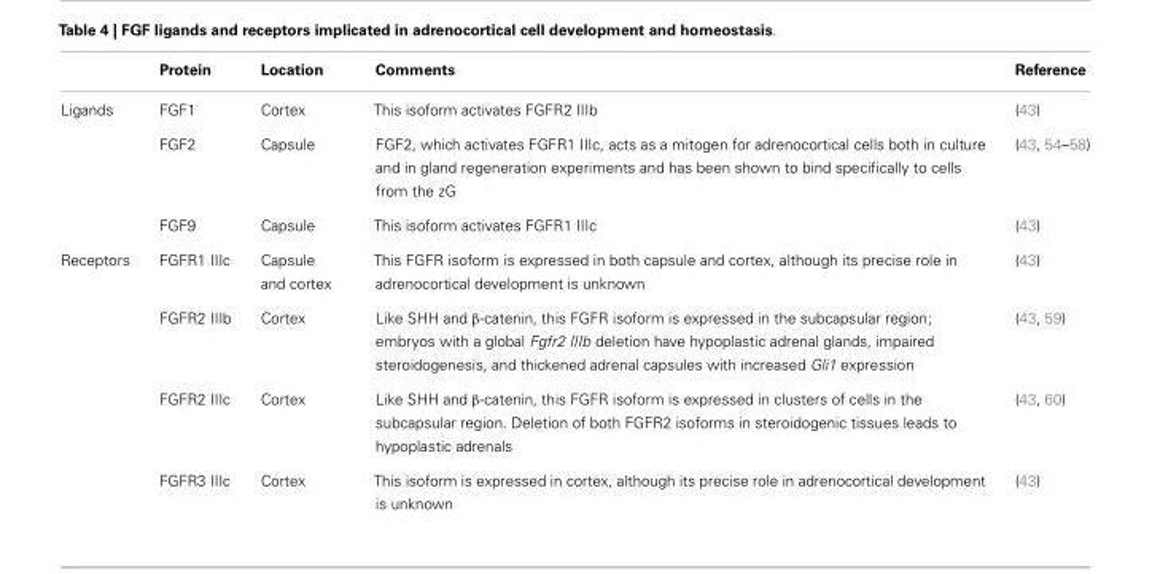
<table><thead><tr><td></td><td>Protein</td><td>Location</td><td>Comments</td><td>Reference</td></tr></thead><tbody><tr><td rowspan="3">Ligands</td><td>FGF1</td><td>Cortex</td><td>This isoform activates FGFR2 IIIb</td><td>(43)</td></tr><tr><td>FGF2</td><td>Capsule</td><td>FGF2, which activates FGFR1 IIIc, acts as a mitogen for adrenocortical cells both in culture and in gland regeneration experiments and has been shown to bind specifically to cells from the zG</td><td>(43, 54–58)</td></tr><tr><td>FGF9</td><td>Capsule</td><td>This isoform activates FGFR1 IIIc</td><td>(43)</td></tr><tr><td rowspan="4">Receptors</td><td>FGFR1 IIIc</td><td>Capsule and cortex</td><td>This FGFR isoform is expressed in both capsule and cortex, although its precise role in adrenocortical development is unknown</td><td>(43)</td></tr><tr><td>FGFR2 IIIb</td><td>Cortex</td><td>Like SHH and β-catenin, this FGFR isoform is expressed in the subcapsular region; embryos with a global Fgfr2 IIIb deletion have hypoplastic adrenal glands, impaired steroidogenesis, and thickened adrenal capsules with increased Gli1 expression</td><td>(43, 59)</td></tr><tr><td>FGFR2 IIIc</td><td>Cortex</td><td>Like SHH and β-catenin, this FGFR isoform is expressed in clusters of cells in the subcapsular region. Deletion of both FGFR2 isoforms in steroidogenic tissues leads to hypoplastic adrenals</td><td>(43, 60)</td></tr><tr><td>FGFR3 IIIc</td><td>Cortex</td><td>This isoform is expressed in cortex, although its precise role in adrenocortical development is unknown</td><td>(43)</td></tr></tbody></table>